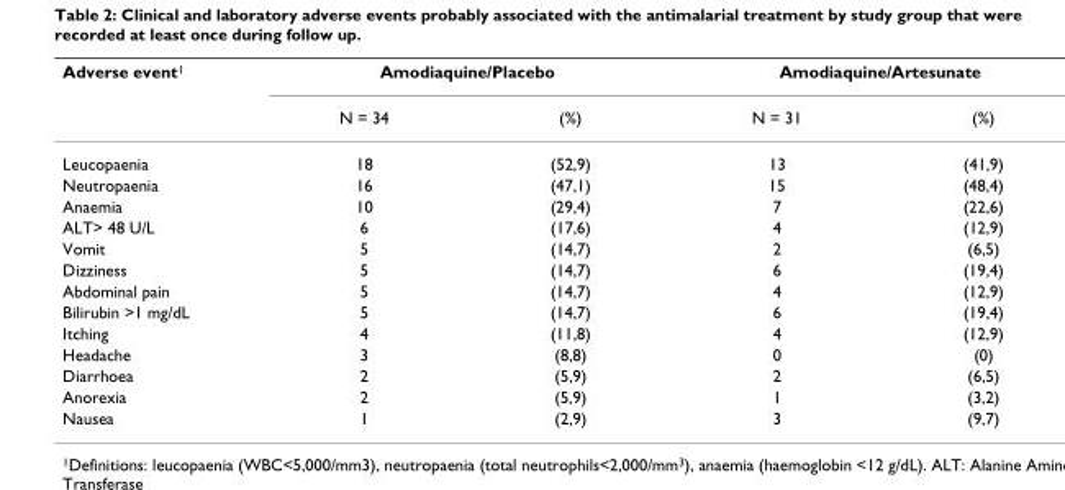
<table><thead><tr><td rowspan="2">Adverse event<sup>1</sup></td><td colspan="2">Amodiaquine/Placebo</td><td colspan="2">Amodiaquine/Artesunate</td></tr><tr><td>N = 34</td><td>(%)</td><td>N = 31</td><td>(%)</td></tr></thead><tbody><tr><td>Leucopaenia</td><td>18</td><td>(52,9)</td><td>13</td><td>(41,9)</td></tr><tr><td>Neutropaenia</td><td>16</td><td>(47,1)</td><td>15</td><td>(48,4)</td></tr><tr><td>Anaemia</td><td>10</td><td>(29,4)</td><td>7</td><td>(22,6)</td></tr><tr><td>ALT&gt; 48 U/L</td><td>6</td><td>(17,6)</td><td>4</td><td>(12,9)</td></tr><tr><td>Vomit</td><td>5</td><td>(14,7)</td><td>2</td><td>(6,5)</td></tr><tr><td>Dizziness</td><td>5</td><td>(14,7)</td><td>6</td><td>(19,4)</td></tr><tr><td>Abdominal pain</td><td>5</td><td>(14,7)</td><td>4</td><td>(12,9)</td></tr><tr><td>Bilirubin &gt;1 mg/dL</td><td>5</td><td>(14,7)</td><td>6</td><td>(19,4)</td></tr><tr><td>Itching</td><td>4</td><td>(11,8)</td><td>4</td><td>(12,9)</td></tr><tr><td>Headache</td><td>3</td><td>(8,8)</td><td>0</td><td>(0)</td></tr><tr><td>Diarrhoea</td><td>2</td><td>(5,9)</td><td>2</td><td>(6,5)</td></tr><tr><td>Anorexia</td><td>2</td><td>(5,9)</td><td>1</td><td>(3,2)</td></tr><tr><td>Nausea</td><td>1</td><td>(2,9)</td><td>3</td><td>(9,7)</td></tr></tbody></table>